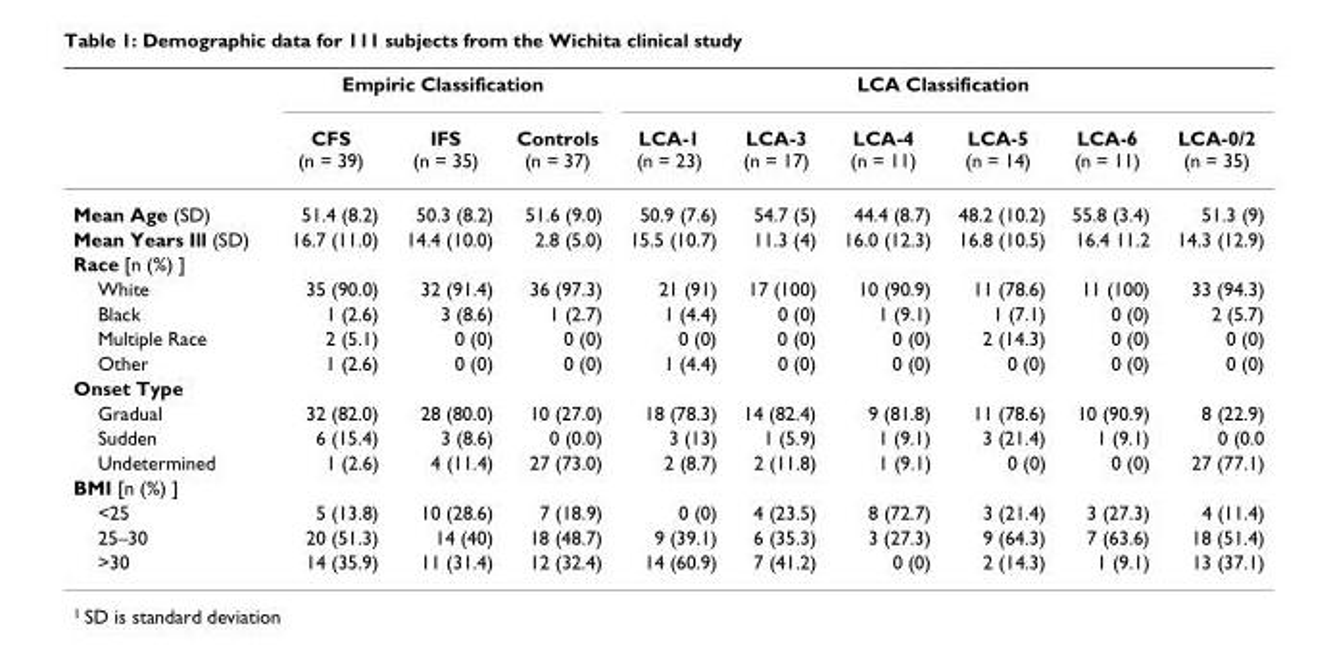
<table><thead><tr><td rowspan="2"></td><td colspan="3">Empiric Classification</td><td colspan="6">LCA Classification</td></tr><tr><td>CFS (n = 39)</td><td>IFS (n = 35)</td><td>Controls (n = 37)</td><td>LCA-1 (n = 23)</td><td>LCA-3 (n = 17)</td><td>LCA-4 (n = 11)</td><td>LCA-5 (n = 14)</td><td>LCA-6 (n = 11)</td><td>LCA-0/2 (n = 35)</td></tr></thead><tbody><tr><td>Mean Age (SD)</td><td>51.4 (8.2)</td><td>50.3 (8.2)</td><td>51.6 (9.0)</td><td>50.9 (7.6)</td><td>54.7 (5)</td><td>44.4 (8.7)</td><td>48.2 (10.2)</td><td>55.8 (3.4)</td><td>51.3 (9)</td></tr><tr><td>Mean Years Ill (SD)</td><td>16.7 (11.0)</td><td>14.4 (10.0)</td><td>2.8 (5.0)</td><td>15.5 (10.7)</td><td>11.3 (4)</td><td>16.0 (12.3)</td><td>16.8 (10.5)</td><td>16.4 11.2</td><td>14.3 (12.9)</td></tr><tr><td colspan="10">Race [n (%) ]</td></tr><tr><td>White</td><td>35 (90.0)</td><td>32 (91.4)</td><td>36 (97.3)</td><td>21 (91)</td><td>17 (100)</td><td>10 (90.9)</td><td>11 (78.6)</td><td>11 (100)</td><td>33 (94.3)</td></tr><tr><td>Black</td><td>1 (2.6)</td><td>3 (8.6)</td><td>1 (2.7)</td><td>1 (4.4)</td><td>0 (0)</td><td>1 (9.1)</td><td>1 (7.1)</td><td>0 (0)</td><td>2 (5.7)</td></tr><tr><td>Multiple Race</td><td>2 (5.1)</td><td>0 (0)</td><td>0 (0)</td><td>0 (0)</td><td>0 (0)</td><td>0 (0)</td><td>2 (14.3)</td><td>0 (0)</td><td>0 (0)</td></tr><tr><td>Other</td><td>1 (2.6)</td><td>0 (0)</td><td>0 (0)</td><td>1 (4.4)</td><td>0 (0)</td><td>0 (0)</td><td>0 (0)</td><td>0 (0)</td><td>0 (0)</td></tr><tr><td colspan="10">Onset Type</td></tr><tr><td>Gradual</td><td>32 (82.0)</td><td>28 (80.0)</td><td>10 (27.0)</td><td>18 (78.3)</td><td>14 (82.4)</td><td>9 (81.8)</td><td>11 (78.6)</td><td>10 (90.9)</td><td>8 (22.9)</td></tr><tr><td>Sudden</td><td>6 (15.4)</td><td>3 (8.6)</td><td>0 (0.0)</td><td>3 (13)</td><td>1 (5.9)</td><td>1 (9.1)</td><td>3 (21.4)</td><td>1 (9.1)</td><td>0 (0.0</td></tr><tr><td>Undetermined</td><td>1 (2.6)</td><td>4 (11.4)</td><td>27 (73.0)</td><td>2 (8.7)</td><td>2 (11.8)</td><td>1 (9.1)</td><td>0 (0)</td><td>0 (0)</td><td>27 (77.1)</td></tr><tr><td colspan="10">BMI [n (%) ]</td></tr><tr><td>&lt;25</td><td>5 (13.8)</td><td>10 (28.6)</td><td>7 (18.9)</td><td>0 (0)</td><td>4 (23.5)</td><td>8 (72.7)</td><td>3 (21.4)</td><td>3 (27.3)</td><td>4 (11.4)</td></tr><tr><td>25–30</td><td>20 (51.3)</td><td>14 (40)</td><td>18 (48.7)</td><td>9 (39.1)</td><td>6 (35.3)</td><td>3 (27.3)</td><td>9 (64.3)</td><td>7 (63.6)</td><td>18 (51.4)</td></tr><tr><td>&gt;30</td><td>14 (35.9)</td><td>11 (31.4)</td><td>12 (32.4)</td><td>14 (60.9)</td><td>7 (41.2)</td><td>0 (0)</td><td>2 (14.3)</td><td>1 (9.1)</td><td>13 (37.1)</td></tr></tbody></table>